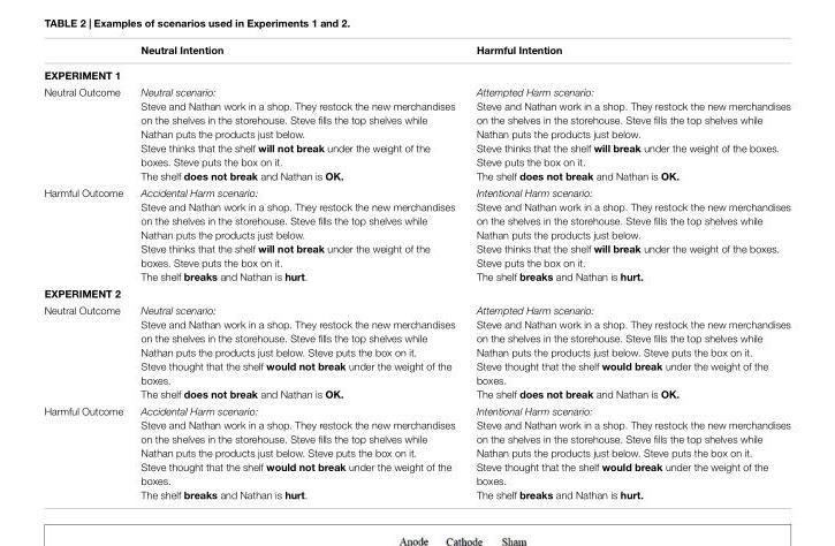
<table><thead><tr><td></td><td>Neutral Intention</td><td>Harmful Intention</td></tr></thead><tbody><tr><td colspan="3">EXPERIMENT 1</td></tr><tr><td>Neutral Outcome</td><td>Neutral scenario: Steve and Nathan work in a shop. They restock the new merchandises on the shelves in the storehouse. Steve fills the top shelves while Nathan puts the products just below. Steve thinks that the shelf will not break under the weight of the boxes. Steve puts the box on it. The shelf does not break and Nathan is OK.</td><td>Attempted Harm scenario: Steve and Nathan work in a shop. They restock the new merchandises on the shelves in the storehouse. Steve fills the top shelves while Nathan puts the products just below. Steve thinks that the shelf will break under the weight of the boxes. Steve puts the box on it. The shelf does not break and Nathan is OK.</td></tr><tr><td>Harmful Outcome</td><td>Accidental Harm scenario: Steve and Nathan work in a shop. They restock the new merchandises on the shelves in the storehouse. Steve fills the top shelves while Nathan puts the products just below. Steve thinks that the shelf will not break under the weight of the boxes. Steve puts the box on it. The shelf breaks and Nathan is hurt.</td><td>Intentional Harm scenario: Steve and Nathan work in a shop. They restock the new merchandises on the shelves in the storehouse. Steve fills the top shelves while Nathan puts the products just below. Steve thinks that the shelf will break under the weight of the boxes. Steve puts the box on it. The shelf breaks and Nathan is hurt.</td></tr><tr><td colspan="3">EXPERIMENT 2</td></tr><tr><td>Neutral Outcome</td><td>Neutral scenario: Steve and Nathan work in a shop. They restock the new merchandises on the shelves in the storehouse. Steve fills the top shelves while Nathan puts the products just below. Steve puts the box on it. Steve thought that the shelf would not break under the weight of the boxes. The shelf does not break and Nathan is OK.</td><td>Attempted Harm scenario: Steve and Nathan work in a shop. They restock the new merchandises on the shelves in the storehouse. Steve fills the top shelves while Nathan puts the products just below. Steve puts the box on it. Steve thought that the shelf would break under the weight of the boxes. The shelf does not break and Nathan is OK.</td></tr><tr><td>Harmful Outcome</td><td>Accidental Harm scenario: Steve and Nathan work in a shop. They restock the new merchandises on the shelves in the storehouse. Steve fills the top shelves while Nathan puts the products just below. Steve puts the box on it. Steve thought that the shelf would not break under the weight of the boxes. The shelf breaks and Nathan is hurt.</td><td>Intentional Harm scenario: Steve and Nathan work in a shop. They restock the new merchandises on the shelves in the storehouse. Steve fills the top shelves while Nathan puts the products just below. Steve puts the box on it. Steve thought that the shelf would break under the weight of the boxes. The shelf breaks and Nathan is hurt.</td></tr></tbody></table>